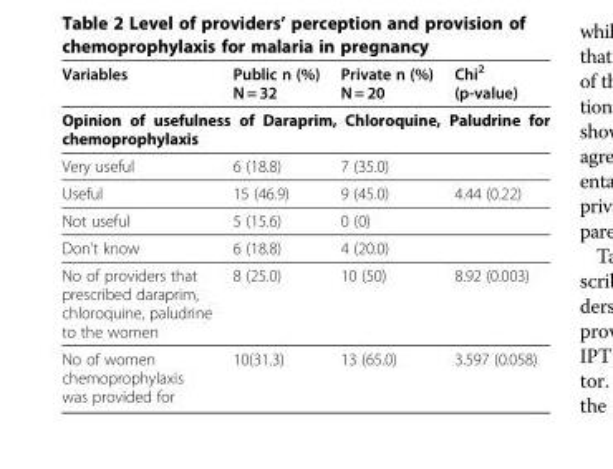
<table><thead><tr><td>Variables</td><td>Public n (%) N = 32</td><td>Private n (%) N = 20</td><td>Chi<sup>2</sup> (p-value)</td></tr></thead><tbody><tr><td colspan="4">Opinion of usefulness of Daraprim, Chloroquine, Paludrine for chemoprophylaxis</td></tr><tr><td>Very useful</td><td>6 (18.8)</td><td>7 (35.0)</td><td></td></tr><tr><td>Useful</td><td>15 (46.9)</td><td>9 (45.0)</td><td>4.44 (0.22)</td></tr><tr><td>Not useful</td><td>5 (15.6)</td><td>0 (0)</td><td></td></tr><tr><td>Don’t know</td><td>6 (18.8)</td><td>4 (20.0)</td><td></td></tr><tr><td>No of providers that prescribed daraprim, chloroquine, paludrine to the women</td><td>8 (25.0)</td><td>10 (50)</td><td>8.92 (0.003)</td></tr><tr><td>No of women chemoprophylaxis was provided for</td><td>10(31.3)</td><td>13 (65.0)</td><td>3.597 (0.058)</td></tr></tbody></table>